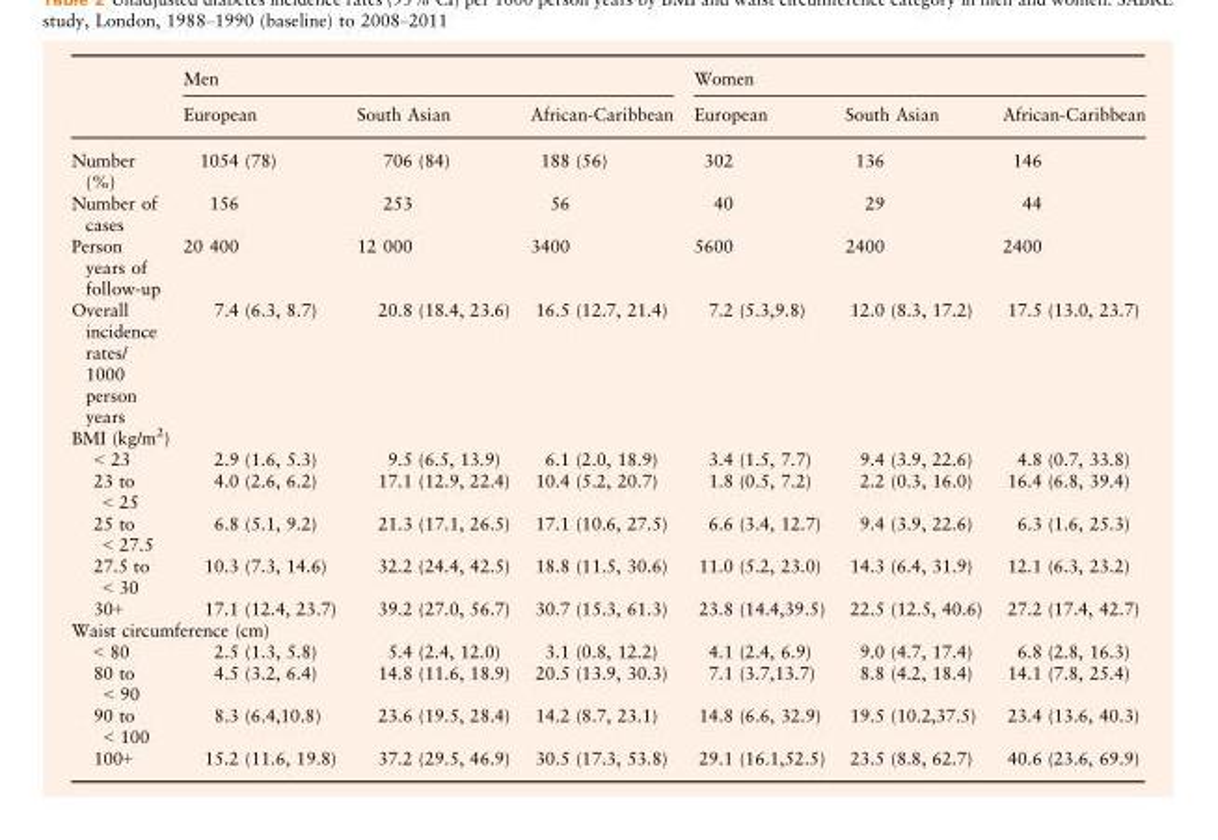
<table><thead><tr><td rowspan="2"></td><td colspan="3">Men</td><td colspan="3">Women</td></tr><tr><td>European</td><td>South Asian</td><td>African-Caribbean</td><td>European</td><td>South Asian</td><td>African-Caribbean</td></tr></thead><tbody><tr><td>Number (%)</td><td>1054 (78)</td><td>706 (84)</td><td>188 (56)</td><td>302</td><td>136</td><td>146</td></tr><tr><td>Number of cases</td><td>156</td><td>253</td><td>56</td><td>40</td><td>29</td><td>44</td></tr><tr><td>Person years of follow-up</td><td>20 400</td><td>12 000</td><td>3400</td><td>5600</td><td>2400</td><td>2400</td></tr><tr><td>Overall incidence rates/ 1000 person years</td><td>7.4 (6.3, 8.7)</td><td>20.8 (18.4, 23.6)</td><td>16.5 (12.7, 21.4)</td><td>7.2 (5.3,9.8)</td><td>12.0 (8.3, 17.2)</td><td>17.5 (13.0, 23.7)</td></tr><tr><td colspan="7">BMI (kg/m<sup>2</sup>)</td></tr><tr><td>&lt; 23</td><td>2.9 (1.6, 5.3)</td><td>9.5 (6.5, 13.9)</td><td>6.1 (2.0, 18.9)</td><td>3.4 (1.5, 7.7)</td><td>9.4 (3.9, 22.6)</td><td>4.8 (0.7, 33.8)</td></tr><tr><td>23 to &lt; 25</td><td>4.0 (2.6, 6.2)</td><td>17.1 (12.9, 22.4)</td><td>10.4 (5.2, 20.7)</td><td>1.8 (0.5, 7.2)</td><td>2.2 (0.3, 16.0)</td><td>16.4 (6.8, 39.4)</td></tr><tr><td>25 to &lt; 27.5</td><td>6.8 (5.1, 9.2)</td><td>21.3 (17.1, 26.5)</td><td>17.1 (10.6, 27.5)</td><td>6.6 (3.4, 12.7)</td><td>9.4 (3.9, 22.6)</td><td>6.3 (1.6, 25.3)</td></tr><tr><td>27.5 to &lt; 30</td><td>10.3 (7.3, 14.6)</td><td>32.2 (24.4, 42.5)</td><td>18.8 (11.5, 30.6)</td><td>11.0 (5.2, 23.0)</td><td>14.3 (6.4, 31.9)</td><td>12.1 (6.3, 23.2)</td></tr><tr><td>30+</td><td>17.1 (12.4, 23.7)</td><td>39.2 (27.0, 56.7)</td><td>30.7 (15.3, 61.3)</td><td>23.8 (14.4,39.5)</td><td>22.5 (12.5, 40.6)</td><td>27.2 (17.4, 42.7)</td></tr><tr><td colspan="7">Waist circumference (cm)</td></tr><tr><td>&lt; 80</td><td>2.5 (1.3, 5.8)</td><td>5.4 (2.4, 12.0)</td><td>3.1 (0.8, 12.2)</td><td>4.1 (2.4, 6.9)</td><td>9.0 (4.7, 17.4)</td><td>6.8 (2.8, 16.3)</td></tr><tr><td>80 to &lt; 90</td><td>4.5 (3.2, 6.4)</td><td>14.8 (11.6, 18.9)</td><td>20.5 (13.9, 30.3)</td><td>7.1 (3.7,13.7)</td><td>8.8 (4.2, 18.4)</td><td>14.1 (7.8, 25.4)</td></tr><tr><td>90 to &lt; 100</td><td>8.3 (6.4,10.8)</td><td>23.6 (19.5, 28.4)</td><td>14.2 (8.7, 23.1)</td><td>14.8 (6.6, 32.9)</td><td>19.5 (10.2,37.5)</td><td>23.4 (13.6, 40.3)</td></tr><tr><td>100+</td><td>15.2 (11.6, 19.8)</td><td>37.2 (29.5, 46.9)</td><td>30.5 (17.3, 53.8)</td><td>29.1 (16.1,52.5)</td><td>23.5 (8.8, 62.7)</td><td>40.6 (23.6, 69.9)</td></tr></tbody></table>